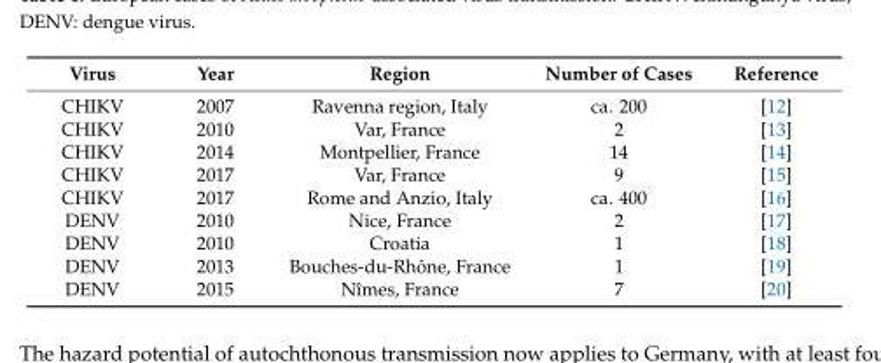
<table><thead><tr><td>Virus</td><td>Year</td><td>Region</td><td>Number of Cases</td><td>Reference</td></tr></thead><tbody><tr><td>CHIKV</td><td>2007</td><td>Ravenna region, Italy</td><td>ca. 200</td><td>[12]</td></tr><tr><td>CHIKV</td><td>2010</td><td>Var, France</td><td>2</td><td>[13]</td></tr><tr><td>CHIKV</td><td>2014</td><td>Montpellier, France</td><td>14</td><td>[14]</td></tr><tr><td>CHIKV</td><td>2017</td><td>Var, France</td><td>9</td><td>[15]</td></tr><tr><td>CHIKV</td><td>2017</td><td>Rome and Anzio, Italy</td><td>ca. 400</td><td>[16]</td></tr><tr><td>DENV</td><td>2010</td><td>Nice, France</td><td>2</td><td>[17]</td></tr><tr><td>DENV</td><td>2010</td><td>Croatia</td><td>1</td><td>[18]</td></tr><tr><td>DENV</td><td>2013</td><td>Bouches-du-Rhône, France</td><td>1</td><td>[19]</td></tr><tr><td>DENV</td><td>2015</td><td>Nîmes, France</td><td>7</td><td>[20]</td></tr></tbody></table>